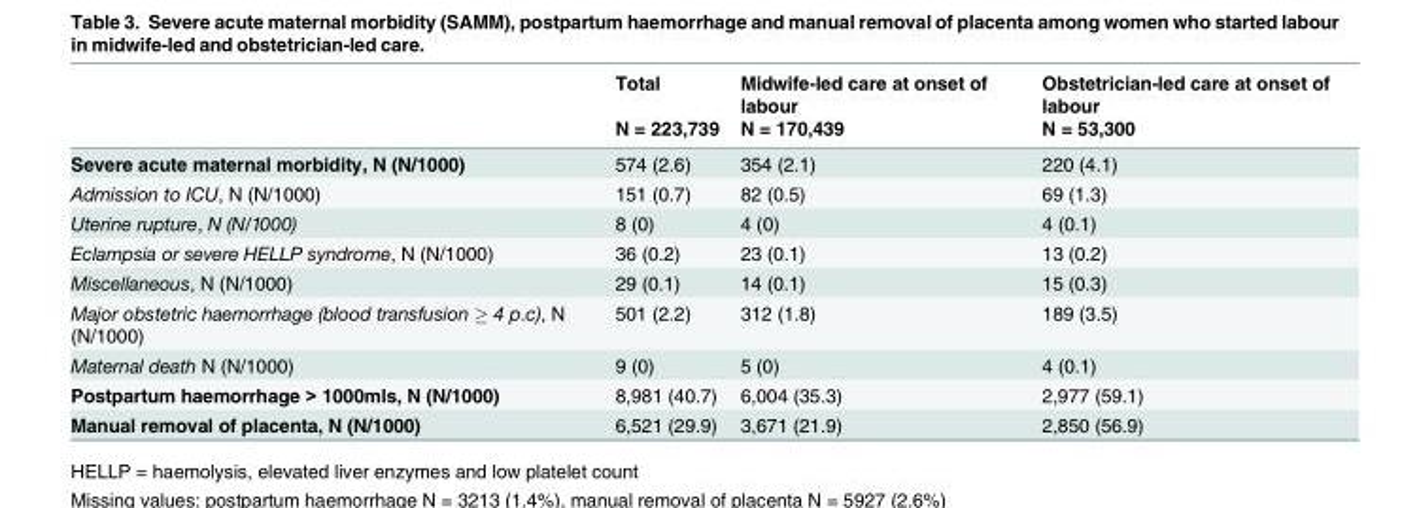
<table><thead><tr><td rowspan="2"></td><td rowspan="2">Total N = 223,739</td><td rowspan="2">Midwife-led care at onset of labour N = 170,439</td><td rowspan="2">Obstetrician-led care at onset of labour N = 53,300</td></tr><tr></tr></thead><tbody><tr><td>Severe acute maternal morbidity, N (N/1000)</td><td>574 (2.6)</td><td>354 (2.1)</td><td>220 (4.1)</td></tr><tr><td>Admission to ICU, N (N/1000)</td><td>151 (0.7)</td><td>82 (0.5)</td><td>69 (1.3)</td></tr><tr><td>Uterine rupture, N (N/1000)</td><td>8 (0)</td><td>4 (0)</td><td>4 (0.1)</td></tr><tr><td>Eclampsia or severe HELLP syndrome, N (N/1000)</td><td>36 (0.2)</td><td>23 (0.1)</td><td>13 (0.2)</td></tr><tr><td>Miscellaneous, N (N/1000)</td><td>29 (0.1)</td><td>14 (0.1)</td><td>15 (0.3)</td></tr><tr><td>Major obstetric haemorrhage (blood transfusion ≥ 4 p.c), N (N/1000)</td><td>501 (2.2)</td><td>312 (1.8)</td><td>189 (3.5)</td></tr><tr><td>Maternal death N (N/1000)</td><td>9 (0)</td><td>5 (0)</td><td>4 (0.1)</td></tr><tr><td>Postpartum haemorrhage &gt; 1000mls, N (N/1000)</td><td>8,981 (40.7)</td><td>6,004 (35.3)</td><td>2,977 (59.1)</td></tr><tr><td>Manual removal of placenta, N (N/1000)</td><td>6,521 (29.9)</td><td>3,671 (21.9)</td><td>2,850 (56.9)</td></tr></tbody></table>